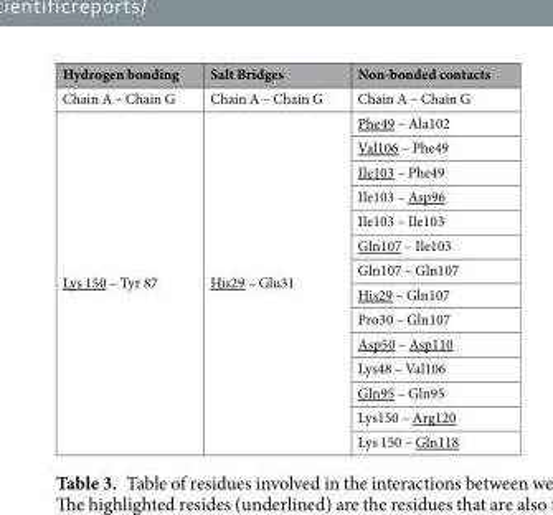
<table><thead><tr><td>Hydrogen bonding</td><td>Salt Bridges</td><td>Non-bonded contacts</td></tr></thead><tbody><tr><td>Chain A – Chain G</td><td>Chain A – Chain G</td><td>Chain A – Chain G</td></tr><tr><td rowspan="14">Lys 150 – Tyr 87</td><td rowspan="14">His29 – Glu31</td><td>Phe49 – Ala102</td></tr><tr><td>Val106 – Phe49</td></tr><tr><td>Ile103 – Phe49</td></tr><tr><td>Ile103 – Asp96</td></tr><tr><td>Ile103 – Ile103</td></tr><tr><td>Gln107 – Ile103</td></tr><tr><td>Gln107 – Gln107</td></tr><tr><td>His29 – Gln107</td></tr><tr><td>Pro30 – Gln107</td></tr><tr><td>Asp50 – Asp110</td></tr><tr><td>Lys48 – Val106</td></tr><tr><td>Gln95 – Gln95</td></tr><tr><td>Lys150 – Arg120</td></tr><tr><td>Lys 150 – Gln118</td></tr></tbody></table>